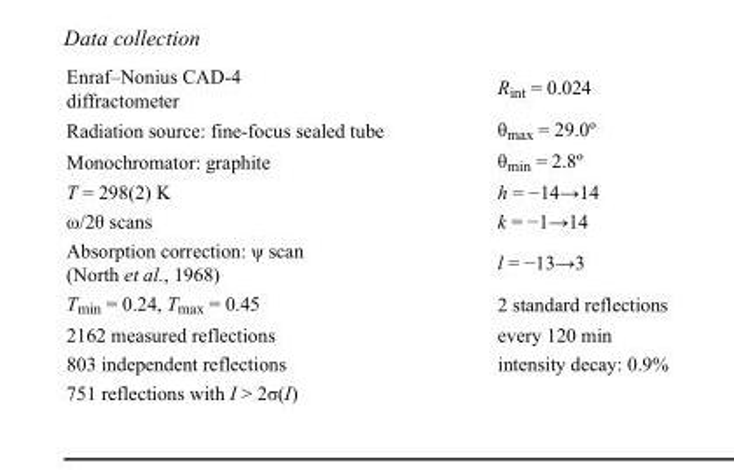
<table><tbody><tr><td>Enraf–Nonius CAD-4 diffractometer</td><td>R<sub>int</sub> = 0.024</td></tr><tr><td>Radiation source: fine-focus sealed tube</td><td>θ<sub>max</sub> = 29.0º</td></tr><tr><td>Monochromator: graphite</td><td>θ<sub>min</sub> = 2.8º</td></tr><tr><td>T = 298(2) K</td><td>h = −14→14</td></tr><tr><td>ω/2θ scans</td><td>k = −1→14</td></tr><tr><td>Absorption correction: ψ scan (North et al., 1968)</td><td>l = −13→3</td></tr><tr><td>T<sub>min</sub> = 0.24, T<sub>max</sub> = 0.45</td><td>2 standard reflections</td></tr><tr><td>2162 measured reflections</td><td>every 120 min</td></tr><tr><td>803 independent reflections</td><td>intensity decay: 0.9%</td></tr><tr><td>751 reflections with I &gt; 2σ(I)</td><td></td></tr></tbody></table>